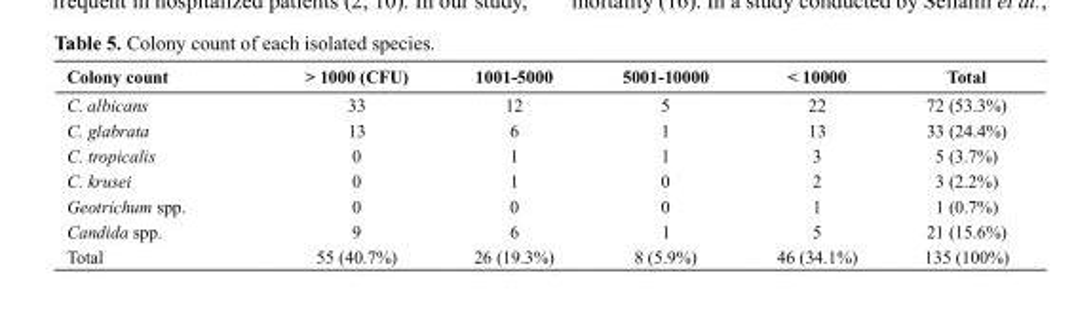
<table><thead><tr><td>Colony count</td><td>&gt; 1000 (CFU)</td><td>1001-5000</td><td>5001-10000</td><td>&lt; 10000</td><td>Total</td></tr></thead><tbody><tr><td>C. albicans</td><td>33</td><td>12</td><td>5</td><td>22</td><td>72 (53.3%)</td></tr><tr><td>C. glabrata</td><td>13</td><td>6</td><td>1</td><td>13</td><td>33 (24.4%)</td></tr><tr><td>C. tropicalis</td><td>0</td><td>1</td><td>1</td><td>3</td><td>5 (3.7%)</td></tr><tr><td>C. krusei</td><td>0</td><td>1</td><td>0</td><td>2</td><td>3 (2.2%)</td></tr><tr><td>Geotrichum spp.</td><td>0</td><td>0</td><td>0</td><td>1</td><td>1 (0.7%)</td></tr><tr><td>Candida spp.</td><td>9</td><td>6</td><td>1</td><td>5</td><td>21 (15.6%)</td></tr><tr><td>Total</td><td>55 (40.7%)</td><td>26 (19.3%)</td><td>8 (5.9%)</td><td>46 (34.1%)</td><td>135 (100%)</td></tr></tbody></table>